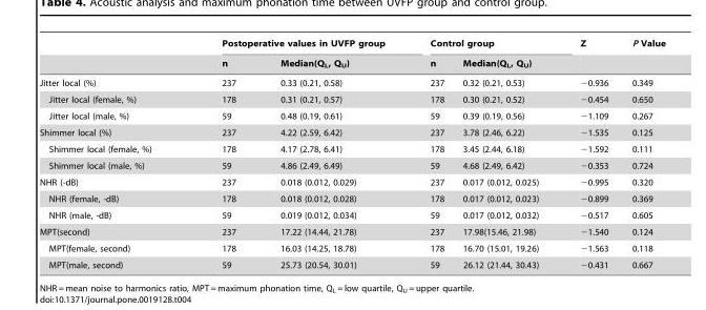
<table><thead><tr><td rowspan="2"></td><td colspan="2">Postoperative values in UVFP group</td><td colspan="2">Control group</td><td rowspan="2">Z</td><td rowspan="2">P Value</td></tr><tr><td>n</td><td>Median(Q<sub>L</sub>, Q<sub>U</sub>)</td><td>n</td><td>Median(Q<sub>L</sub>, Q<sub>U</sub>)</td></tr></thead><tbody><tr><td>Jitter local (%)</td><td>237</td><td>0.33 (0.21, 0.58)</td><td>237</td><td>0.32 (0.21, 0.53)</td><td>−0.936</td><td>0.349</td></tr><tr><td>Jitter local (female, %)</td><td>178</td><td>0.31 (0.21, 0.57)</td><td>178</td><td>0.30 (0.21, 0.52)</td><td>−0.454</td><td>0.650</td></tr><tr><td>Jitter local (male, %)</td><td>59</td><td>0.48 (0.19, 0.61)</td><td>59</td><td>0.39 (0.19, 0.56)</td><td>−1.109</td><td>0.267</td></tr><tr><td>Shimmer local (%)</td><td>237</td><td>4.22 (2.59, 6.42)</td><td>237</td><td>3.78 (2.46, 6.22)</td><td>−1.535</td><td>0.125</td></tr><tr><td>Shimmer local (female, %)</td><td>178</td><td>4.17 (2.78, 6.41)</td><td>178</td><td>3.45 (2.44, 6.18)</td><td>−1.592</td><td>0.111</td></tr><tr><td>Shimmer local (male, %)</td><td>59</td><td>4.86 (2.49, 6.49)</td><td>59</td><td>4.68 (2.49, 6.42)</td><td>−0.353</td><td>0.724</td></tr><tr><td>NHR (-dB)</td><td>237</td><td>0.018 (0.012, 0.029)</td><td>237</td><td>0.017 (0.012, 0.025)</td><td>−0.995</td><td>0.320</td></tr><tr><td>NHR (female, -dB)</td><td>178</td><td>0.018 (0.012, 0.028)</td><td>178</td><td>0.017 (0.012, 0.023)</td><td>−0.899</td><td>0.369</td></tr><tr><td>NHR (male, -dB)</td><td>59</td><td>0.019 (0.012, 0.034)</td><td>59</td><td>0.017 (0.012, 0.032)</td><td>−0.517</td><td>0.605</td></tr><tr><td>MPT(second)</td><td>237</td><td>17.22 (14.44, 21.78)</td><td>237</td><td>17.98(15.46, 21.98)</td><td>−1.540</td><td>0.124</td></tr><tr><td>MPT(female, second)</td><td>178</td><td>16.03 (14.25, 18.78)</td><td>178</td><td>16.70 (15.01, 19.26)</td><td>−1.563</td><td>0.118</td></tr><tr><td>MPT(male, second)</td><td>59</td><td>25.73 (20.54, 30.01)</td><td>59</td><td>26.12 (21.44, 30.43)</td><td>−0.431</td><td>0.667</td></tr></tbody></table>